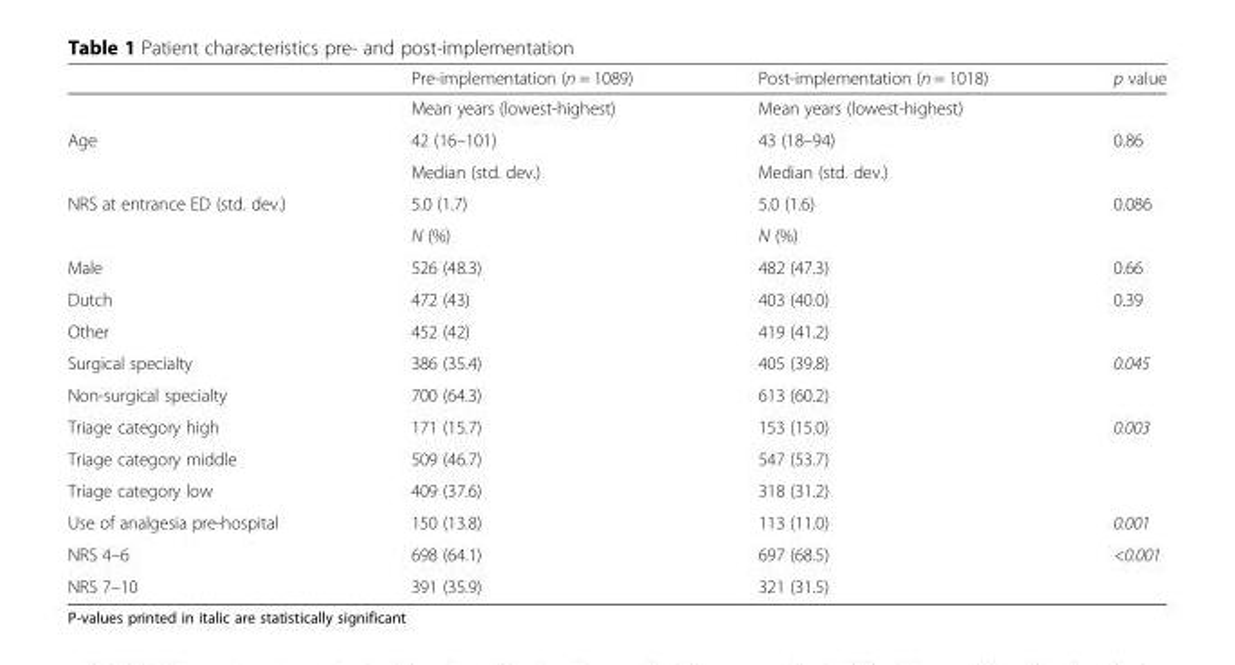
<table><thead><tr><td></td><td>Pre-implementation (n = 1089)</td><td>Post-implementation (n = 1018)</td><td>p value</td></tr></thead><tbody><tr><td></td><td>Mean years (lowest-highest)</td><td>Mean years (lowest-highest)</td><td></td></tr><tr><td rowspan="2">Age</td><td>42 (16–101)</td><td>43 (18–94)</td><td>0.86</td></tr><tr><td>Median (std. dev.)</td><td>Median (std. dev.)</td><td></td></tr><tr><td rowspan="2">NRS at entrance ED (std. dev.)</td><td>5.0 (1.7)</td><td>5.0 (1.6)</td><td>0.086</td></tr><tr><td>N (%)</td><td>N (%)</td><td></td></tr><tr><td>Male</td><td>526 (48.3)</td><td>482 (47.3)</td><td>0.66</td></tr><tr><td>Dutch</td><td>472 (43)</td><td>403 (40.0)</td><td rowspan="2">0.39</td></tr><tr><td>Other</td><td>452 (42)</td><td>419 (41.2)</td></tr><tr><td>Surgical specialty</td><td>386 (35.4)</td><td>405 (39.8)</td><td rowspan="2">0.045</td></tr><tr><td>Non-surgical specialty</td><td>700 (64.3)</td><td>613 (60.2)</td></tr><tr><td>Triage category high</td><td>171 (15.7)</td><td>153 (15.0)</td><td rowspan="3">0.003</td></tr><tr><td>Triage category middle</td><td>509 (46.7)</td><td>547 (53.7)</td></tr><tr><td>Triage category low</td><td>409 (37.6)</td><td>318 (31.2)</td></tr><tr><td>Use of analgesia pre-hospital</td><td>150 (13.8)</td><td>113 (11.0)</td><td>0.001</td></tr><tr><td>NRS 4–6</td><td>698 (64.1)</td><td>697 (68.5)</td><td rowspan="2">&lt;0.001</td></tr><tr><td>NRS 7–10</td><td>391 (35.9)</td><td>321 (31.5)</td></tr></tbody></table>